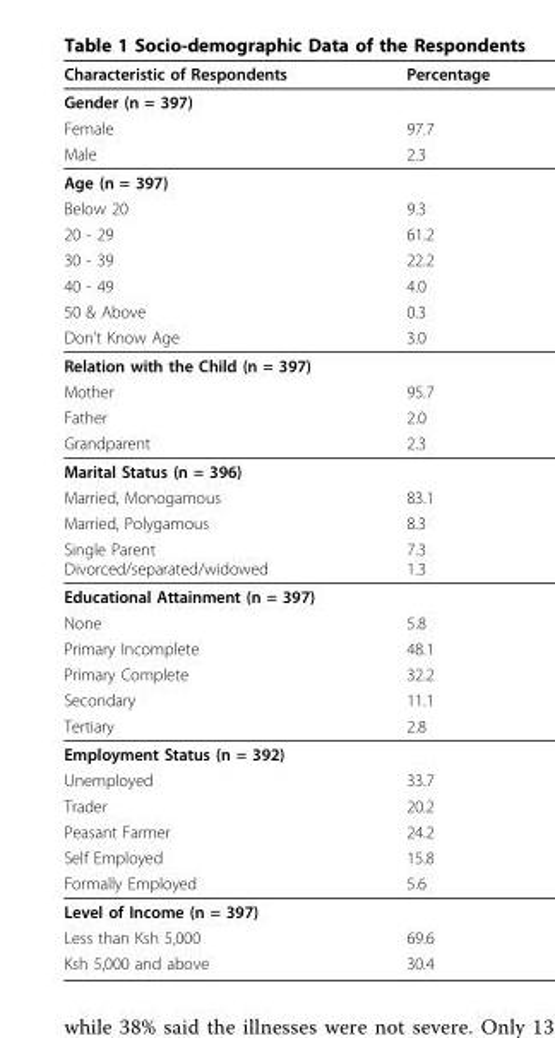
<table><thead><tr><td>Characteristic of Respondents</td><td>Percentage</td></tr></thead><tbody><tr><td colspan="2">Gender (n = 397)</td></tr><tr><td>Female</td><td>97.7</td></tr><tr><td>Male</td><td>2.3</td></tr><tr><td colspan="2">Age (n = 397)</td></tr><tr><td>Below 20</td><td>9.3</td></tr><tr><td>20 - 29</td><td>61.2</td></tr><tr><td>30 - 39</td><td>22.2</td></tr><tr><td>40 - 49</td><td>4.0</td></tr><tr><td>50 &amp; Above</td><td>0.3</td></tr><tr><td>Don’t Know Age</td><td>3.0</td></tr><tr><td colspan="2">Relation with the Child (n = 397)</td></tr><tr><td>Mother</td><td>95.7</td></tr><tr><td>Father</td><td>2.0</td></tr><tr><td>Grandparent</td><td>2.3</td></tr><tr><td colspan="2">Marital Status (n = 396)</td></tr><tr><td>Married, Monogamous</td><td>83.1</td></tr><tr><td>Married, Polygamous</td><td>8.3</td></tr><tr><td>Single Parent Divorced/separated/widowed</td><td>7.3 1.3</td></tr><tr><td colspan="2">Educational Attainment (n = 397)</td></tr><tr><td>None</td><td>5.8</td></tr><tr><td>Primary Incomplete</td><td>48.1</td></tr><tr><td>Primary Complete</td><td>32.2</td></tr><tr><td>Secondary</td><td>11.1</td></tr><tr><td>Tertiary</td><td>2.8</td></tr><tr><td colspan="2">Employment Status (n = 392)</td></tr><tr><td>Unemployed</td><td>33.7</td></tr><tr><td>Trader</td><td>20.2</td></tr><tr><td>Peasant Farmer</td><td>24.2</td></tr><tr><td>Self Employed</td><td>15.8</td></tr><tr><td>Formally Employed</td><td>5.6</td></tr><tr><td colspan="2">Level of Income (n = 397)</td></tr><tr><td>Less than Ksh 5,000</td><td>69.6</td></tr><tr><td>Ksh 5,000 and above</td><td>30.4</td></tr></tbody></table>